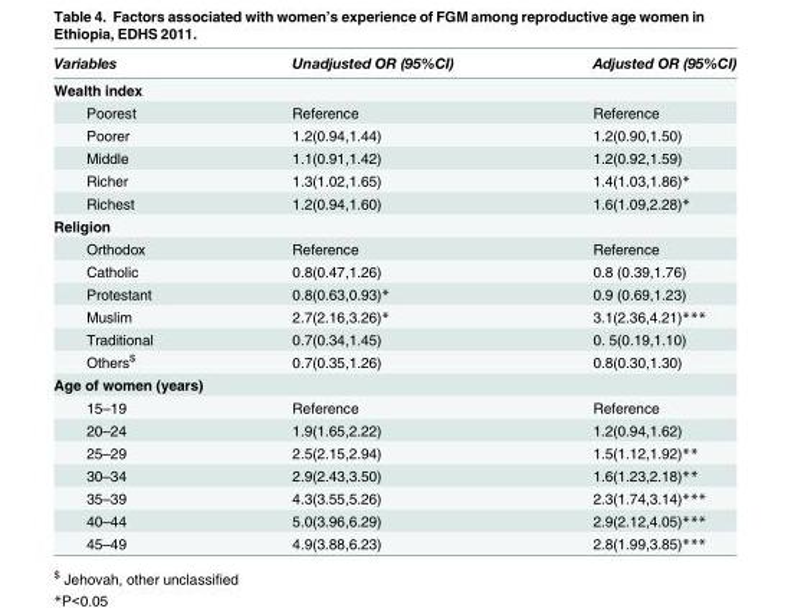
<table><thead><tr><td>Variables</td><td>Unadjusted OR (95%CI)</td><td>Adjusted OR (95%CI)</td></tr></thead><tbody><tr><td colspan="3">Wealth index</td></tr><tr><td>Poorest</td><td>Reference</td><td>Reference</td></tr><tr><td>Poorer</td><td>1.2(0.94,1.44)</td><td>1.2(0.90,1.50)</td></tr><tr><td>Middle</td><td>1.1(0.91,1.42)</td><td>1.2(0.92,1.59)</td></tr><tr><td>Richer</td><td>1.3(1.02,1.65)</td><td>1.4(1.03,1.86)*</td></tr><tr><td>Richest</td><td>1.2(0.94,1.60)</td><td>1.6(1.09,2.28)*</td></tr><tr><td colspan="3">Religion</td></tr><tr><td>Orthodox</td><td>Reference</td><td>Reference</td></tr><tr><td>Catholic</td><td>0.8(0.47,1.26)</td><td>0.8 (0.39,1.76)</td></tr><tr><td>Protestant</td><td>0.8(0.63,0.93)*</td><td>0.9 (0.69,1.23)</td></tr><tr><td>Muslim</td><td>2.7(2.16,3.26)*</td><td>3.1(2.36,4.21)***</td></tr><tr><td>Traditional</td><td>0.7(0.34,1.45)</td><td>0. 5(0.19,1.10)</td></tr><tr><td>Others<sup>$</sup></td><td>0.7(0.35,1.26)</td><td>0.8(0.30,1.30)</td></tr><tr><td colspan="3">Age of women (years)</td></tr><tr><td>15–19</td><td>Reference</td><td>Reference</td></tr><tr><td>20–24</td><td>1.9(1.65,2.22)</td><td>1.2(0.94,1.62)</td></tr><tr><td>25–29</td><td>2.5(2.15,2.94)</td><td>1.5(1.12,1.92)**</td></tr><tr><td>30–34</td><td>2.9(2.43,3.50)</td><td>1.6(1.23,2.18)**</td></tr><tr><td>35–39</td><td>4.3(3.55,5.26)</td><td>2.3(1.74,3.14)***</td></tr><tr><td>40–44</td><td>5.0(3.96,6.29)</td><td>2.9(2.12,4.05)***</td></tr><tr><td>45–49</td><td>4.9(3.88,6.23)</td><td>2.8(1.99,3.85)***</td></tr></tbody></table>